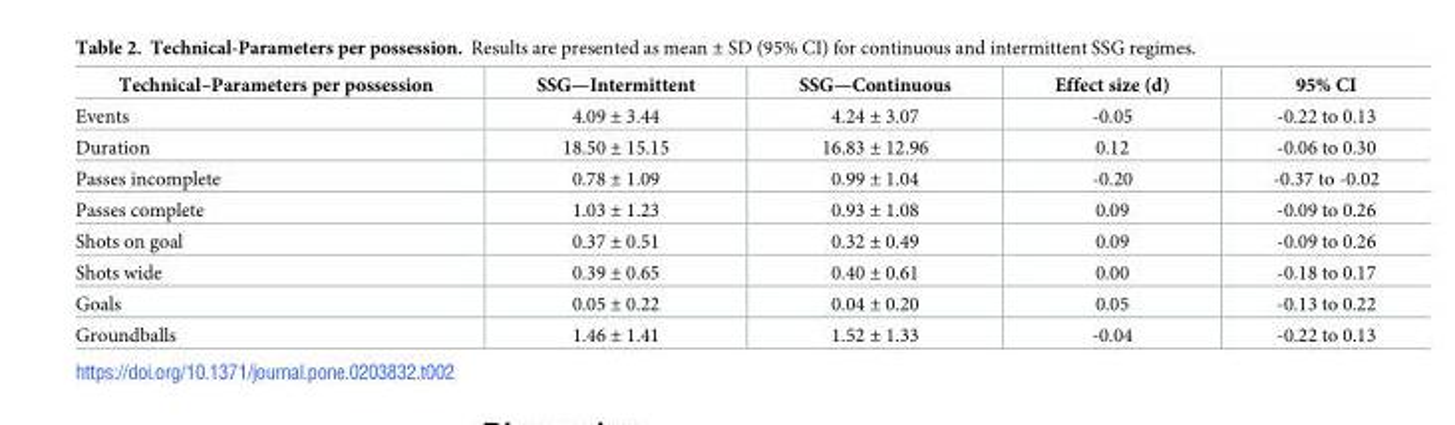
<table><thead><tr><td>Technical–Parameters per possession</td><td>SSG—Intermittent</td><td>SSG—Continuous</td><td>Effect size (d)</td><td>95% CI</td></tr></thead><tbody><tr><td>Events</td><td>4.09 ± 3.44</td><td>4.24 ± 3.07</td><td>-0.05</td><td>-0.22 to 0.13</td></tr><tr><td>Duration</td><td>18.50 ± 15.15</td><td>16.83 ± 12.96</td><td>0.12</td><td>-0.06 to 0.30</td></tr><tr><td>Passes incomplete</td><td>0.78 ± 1.09</td><td>0.99 ± 1.04</td><td>-0.20</td><td>-0.37 to -0.02</td></tr><tr><td>Passes complete</td><td>1.03 ± 1.23</td><td>0.93 ± 1.08</td><td>0.09</td><td>-0.09 to 0.26</td></tr><tr><td>Shots on goal</td><td>0.37 ± 0.51</td><td>0.32 ± 0.49</td><td>0.09</td><td>-0.09 to 0.26</td></tr><tr><td>Shots wide</td><td>0.39 ± 0.65</td><td>0.40 ± 0.61</td><td>0.00</td><td>-0.18 to 0.17</td></tr><tr><td>Goals</td><td>0.05 ± 0.22</td><td>0.04 ± 0.20</td><td>0.05</td><td>-0.13 to 0.22</td></tr><tr><td>Groundballs</td><td>1.46 ± 1.41</td><td>1.52 ± 1.33</td><td>-0.04</td><td>-0.22 to 0.13</td></tr></tbody></table>